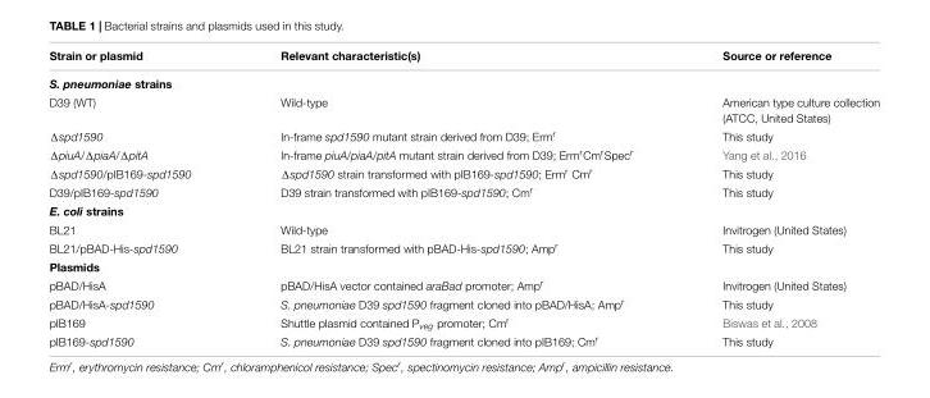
<table><thead><tr><td>Strain or plasmid</td><td>Relevant characteristic(s)</td><td>Source or reference</td></tr></thead><tbody><tr><td colspan="3">S. pneumoniae strains</td></tr><tr><td>D39 (WT)</td><td>Wild-type</td><td>American type culture collection (ATCC, United States)</td></tr><tr><td>Δspd1590</td><td>In-frame spd1590 mutant strain derived from D39; Erm<sup>r</sup></td><td>This study</td></tr><tr><td>ΔpiuA/ΔpiaA/ΔpitA</td><td>In-frame piuA/piaA/pitA mutant strain derived from D39; Erm<sup>r</sup>Cm<sup>r</sup>Spec<sup>r</sup></td><td>Yang et al., 2016</td></tr><tr><td>Δspd1590/pIB169-spd1590</td><td>Δspd1590 strain transformed with pIB169-spd1590; Erm<sup>r</sup> Cm<sup>r</sup></td><td>This study</td></tr><tr><td>D39/pIB169-spd1590</td><td>D39 strain transformed with pIB169-spd1590; Cm<sup>r</sup></td><td>This study</td></tr><tr><td colspan="3">E. coli strains</td></tr><tr><td>BL21</td><td>Wild-type</td><td>Invitrogen (United States)</td></tr><tr><td>BL21/pBAD-His-spd1590</td><td>BL21 strain transformed with pBAD-His-spd1590; Amp<sup>r</sup></td><td>This study</td></tr><tr><td colspan="3">Plasmids</td></tr><tr><td>pBAD/HisA</td><td>pBAD/HisA vector contained araBad promoter; Amp<sup>r</sup></td><td>Invitrogen (United States)</td></tr><tr><td>pBAD/HisA-spd1590</td><td>S. pneumoniae D39 spd1590 fragment cloned into pBAD/HisA; Amp<sup>r</sup></td><td>This study</td></tr><tr><td>pIB169</td><td>Shuttle plasmid contained P<sub>veg</sub> promoter; Cm<sup>r</sup></td><td>Biswas et al., 2008</td></tr><tr><td>pIB169-spd1590</td><td>S. pneumoniae D39 spd1590 fragment cloned into pIB169; Cm<sup>r</sup></td><td>This study</td></tr></tbody></table>